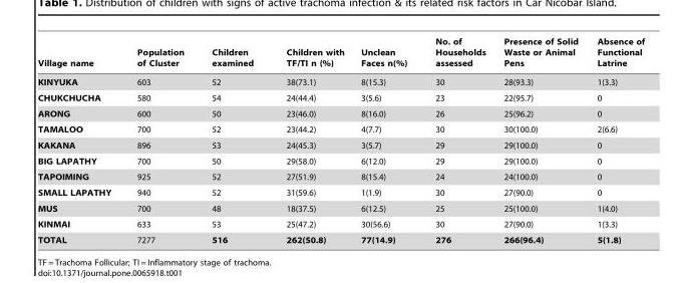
<table><thead><tr><td>Village name</td><td>Population of Cluster</td><td>Children examined</td><td>Children with TF/TI n (%)</td><td>Unclean Faces n(%)</td><td>No. of Households assessed</td><td>Presence of Solid Waste or Animal Pens</td><td>Absence of Functional Latrine</td></tr></thead><tbody><tr><td>KINYUKA</td><td>603</td><td>52</td><td>38(73.1)</td><td>8(15.3)</td><td>30</td><td>28(93.3)</td><td>1(3.3)</td></tr><tr><td>CHUKCHUCHA</td><td>580</td><td>54</td><td>24(44.4)</td><td>3(5.6)</td><td>23</td><td>22(95.7)</td><td>0</td></tr><tr><td>ARONG</td><td>600</td><td>50</td><td>23(46.0)</td><td>8(16.0)</td><td>26</td><td>25(96.2)</td><td>0</td></tr><tr><td>TAMALOO</td><td>700</td><td>52</td><td>23(44.2)</td><td>4(7.7)</td><td>30</td><td>30(100.0)</td><td>2(6.6)</td></tr><tr><td>KAKANA</td><td>896</td><td>53</td><td>24(45.3)</td><td>3(5.7)</td><td>29</td><td>29(100.0)</td><td>0</td></tr><tr><td>BIG LAPATHY</td><td>700</td><td>50</td><td>29(58.0)</td><td>6(12.0)</td><td>29</td><td>29(100.0)</td><td>0</td></tr><tr><td>TAPOIMING</td><td>925</td><td>52</td><td>27(51.9)</td><td>8(15.4)</td><td>24</td><td>24(100.0)</td><td>0</td></tr><tr><td>SMALL LAPATHY</td><td>940</td><td>52</td><td>31(59.6)</td><td>1(1.9)</td><td>30</td><td>27(90.0)</td><td>0</td></tr><tr><td>MUS</td><td>700</td><td>48</td><td>18(37.5)</td><td>6(12.5)</td><td>25</td><td>25(100.0)</td><td>1(4.0)</td></tr><tr><td>KINMAI</td><td>633</td><td>53</td><td>25(47.2)</td><td>30(56.6)</td><td>30</td><td>27(90.0)</td><td>1(3.3)</td></tr><tr><td>TOTAL</td><td>7277</td><td>516</td><td>262(50.8)</td><td>77(14.9)</td><td>276</td><td>266(96.4)</td><td>5(1.8)</td></tr></tbody></table>